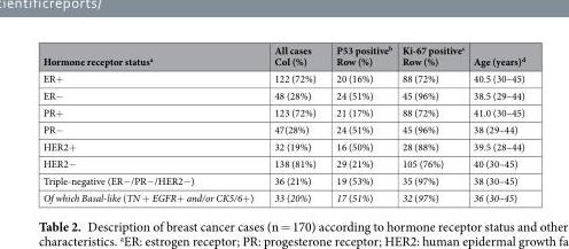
<table><thead><tr><td>Hormone receptor status<sup>a</sup></td><td>All cases Col (%)</td><td>P53 positive<sup>b</sup> Row (%)</td><td>Ki-67 positive<sup>c</sup> Row (%)</td><td>Age (years)<sup>d</sup></td></tr></thead><tbody><tr><td>ER+</td><td>122 (72%)</td><td>20 (16%)</td><td>88 (72%)</td><td>40.5 (30–45)</td></tr><tr><td>ER−</td><td>48 (28%)</td><td>24 (51%)</td><td>45 (96%)</td><td>38.5 (29–44)</td></tr><tr><td>PR+</td><td>123 (72%)</td><td>21 (17%)</td><td>88 (72%)</td><td>41.0 (30–45)</td></tr><tr><td>PR−</td><td>47(28%)</td><td>24 (51%)</td><td>45 (96%)</td><td>38 (29–44)</td></tr><tr><td>HER2+</td><td>32 (19%)</td><td>16 (50%)</td><td>28 (88%)</td><td>39.5 (28–44)</td></tr><tr><td>HER2−</td><td>138 (81%)</td><td>29 (21%)</td><td>105 (76%)</td><td>40 (30–45)</td></tr><tr><td>Triple-negative (ER−/PR−/HER2−)</td><td>36 (21%)</td><td>19 (53%)</td><td>35 (97%)</td><td>38 (30–45)</td></tr><tr><td>Of which Basal-like (TN + EGFR+ and/or CK5/6+)</td><td>33 (20%)</td><td>17 (51%)</td><td>32 (97%)</td><td>36 (30–45)</td></tr></tbody></table>